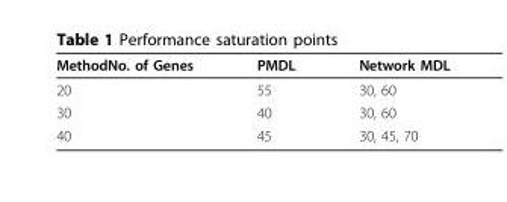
<table><thead><tr><td>MethodNo. of Genes</td><td>PMDL</td><td>Network MDL</td></tr></thead><tbody><tr><td>20</td><td>55</td><td>30, 60</td></tr><tr><td>30</td><td>40</td><td>30, 60</td></tr><tr><td>40</td><td>45</td><td>30, 45, 70</td></tr></tbody></table>